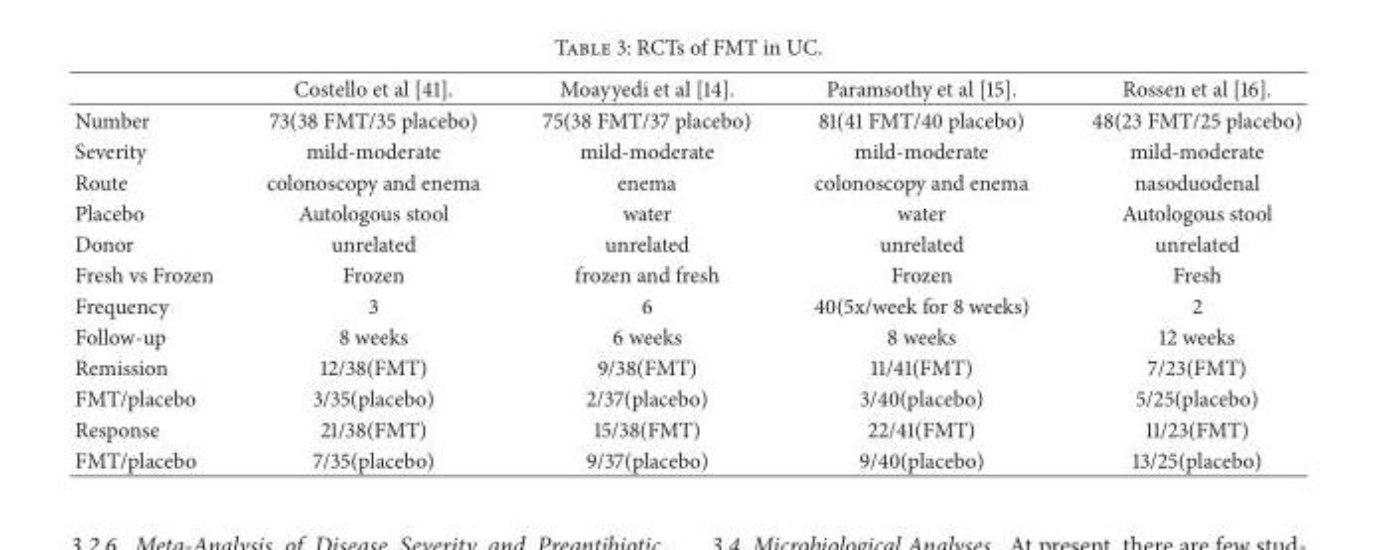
<table><thead><tr><td></td><td>Costello et al [41].</td><td>Moayyedi et al [14].</td><td>Paramsothy et al [15].</td><td>Rossen et al [16].</td></tr></thead><tbody><tr><td>Number</td><td>73(38 FMT/35 placebo)</td><td>75(38 FMT/37 placebo)</td><td>81(41 FMT/40 placebo)</td><td>48(23 FMT/25 placebo)</td></tr><tr><td>Severity</td><td>mild-moderate</td><td>mild-moderate</td><td>mild-moderate</td><td>mild-moderate</td></tr><tr><td>Route</td><td>colonoscopy and enema</td><td>enema</td><td>colonoscopy and enema</td><td>nasoduodenal</td></tr><tr><td>Placebo</td><td>Autologous stool</td><td>water</td><td>water</td><td>Autologous stool</td></tr><tr><td>Donor</td><td>unrelated</td><td>unrelated</td><td>unrelated</td><td>unrelated</td></tr><tr><td>Fresh vs Frozen</td><td>Frozen</td><td>frozen and fresh</td><td>Frozen</td><td>Fresh</td></tr><tr><td>Frequency</td><td>3</td><td>6</td><td>40(5x/week for 8 weeks)</td><td>2</td></tr><tr><td>Follow-up</td><td>8 weeks</td><td>6 weeks</td><td>8 weeks</td><td>12 weeks</td></tr><tr><td>Remission</td><td>12/38(FMT)</td><td>9/38(FMT)</td><td>11/41(FMT)</td><td>7/23(FMT)</td></tr><tr><td>FMT/placebo</td><td>3/35(placebo)</td><td>2/37(placebo)</td><td>3/40(placebo)</td><td>5/25(placebo)</td></tr><tr><td>Response</td><td>21/38(FMT)</td><td>15/38(FMT)</td><td>22/41(FMT)</td><td>11/23(FMT)</td></tr><tr><td>FMT/placebo</td><td>7/35(placebo)</td><td>9/37(placebo)</td><td>9/40(placebo)</td><td>13/25(placebo)</td></tr></tbody></table>